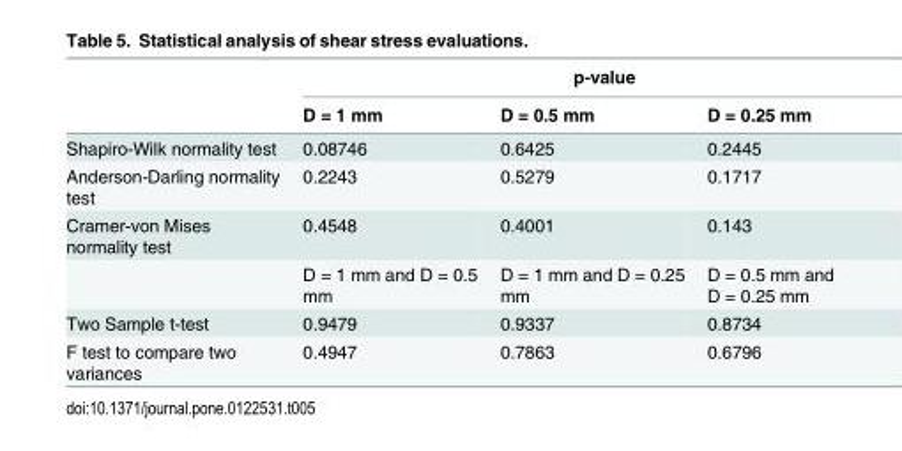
<table><thead><tr><td rowspan="2"></td><td colspan="3">p-value</td></tr><tr><td>D = 1 mm</td><td>D = 0.5 mm</td><td>D = 0.25 mm</td></tr></thead><tbody><tr><td>Shapiro-Wilk normality test</td><td>0.08746</td><td>0.6425</td><td>0.2445</td></tr><tr><td>Anderson-Darling normality test</td><td>0.2243</td><td>0.5279</td><td>0.1717</td></tr><tr><td rowspan="2">Cramer-von Mises normality test</td><td>0.4548</td><td>0.4001</td><td>0.143</td></tr><tr><td>D = 1 mm and D = 0.5 mm</td><td>D = 1 mm and D = 0.25 mm</td><td>D = 0.5 mm and D = 0.25 mm</td></tr><tr><td>Two Sample t-test</td><td>0.9479</td><td>0.9337</td><td>0.8734</td></tr><tr><td>F test to compare two variances</td><td>0.4947</td><td>0.7863</td><td>0.6796</td></tr></tbody></table>